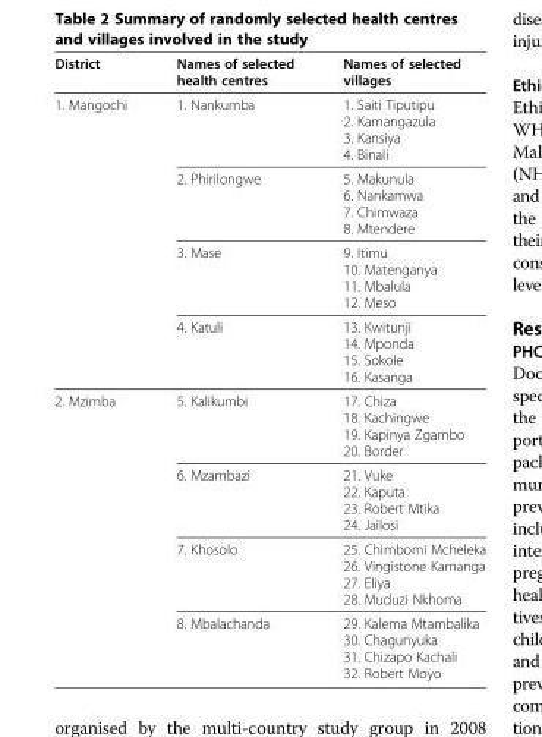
<table><thead><tr><td>District</td><td>Names of selected health centres</td><td>Names of selected villages</td></tr></thead><tbody><tr><td rowspan="16">1. Mangochi</td><td rowspan="3">1. Nankumba</td><td>1. Saiti Tiputipu</td></tr><tr><td>2. Kamangazula</td></tr><tr><td>3. Kansiya</td></tr><tr><td></td><td>4. Binali</td></tr><tr><td rowspan="3">2. Phirilongwe</td><td>5. Makunula</td></tr><tr><td>6. Nankamwa</td></tr><tr><td>7. Chimwaza</td></tr><tr><td></td><td>8. Mtendere</td></tr><tr><td rowspan="3">3. Mase</td><td>9. Itimu</td></tr><tr><td>10. Matenganya</td></tr><tr><td>11. Mbalula</td></tr><tr><td></td><td>12. Meso</td></tr><tr><td rowspan="3">4. Katuli</td><td>13. Kwitunji</td></tr><tr><td>14. Mponda</td></tr><tr><td>15. Sokole</td></tr><tr><td></td><td>16. Kasanga</td></tr><tr><td rowspan="16">2. Mzimba</td><td rowspan="3">5. Kalikumbi</td><td>17. Chiza</td></tr><tr><td>18. Kachingwe</td></tr><tr><td>19. Kapinya Zgambo</td></tr><tr><td></td><td>20. Border</td></tr><tr><td rowspan="3">6. Mzambazi</td><td>21. Vuke</td></tr><tr><td>22. Kaputa</td></tr><tr><td>23. Robert Mtika</td></tr><tr><td></td><td>24. Jailosi</td></tr><tr><td rowspan="3">7. Khosolo</td><td>25. Chimbomi Mcheleka</td></tr><tr><td>26. Vingistone Kamanga</td></tr><tr><td>27. Eliya</td></tr><tr><td></td><td>28. Muduzi Nkhoma</td></tr><tr><td rowspan="3">8. Mbalachanda</td><td>29. Kalema Mtambalika</td></tr><tr><td>30. Chagunyuka</td></tr><tr><td>31. Chizapo Kachali</td></tr><tr><td></td><td>32. Robert Moyo</td></tr></tbody></table>